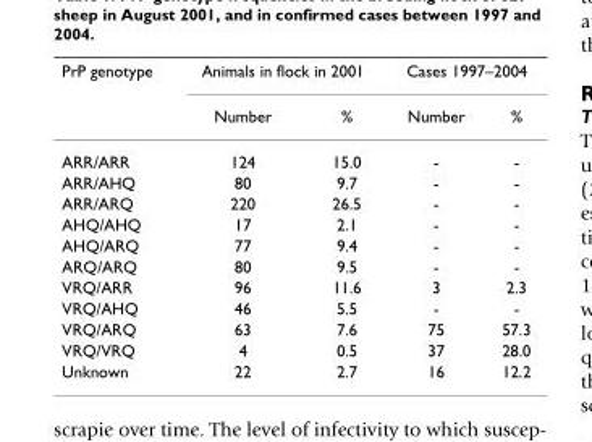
<table><thead><tr><td rowspan="2">PrP genotype</td><td colspan="2">Animals in flock in 2001</td><td colspan="2">Cases 1997–2004</td></tr><tr><td>Number</td><td>%</td><td>Number</td><td>%</td></tr></thead><tbody><tr><td>ARR/ARR</td><td>124</td><td>15.0</td><td>-</td><td>-</td></tr><tr><td>ARR/AHQ</td><td>80</td><td>9.7</td><td>-</td><td>-</td></tr><tr><td>ARR/ARQ</td><td>220</td><td>26.5</td><td>-</td><td>-</td></tr><tr><td>AHQ/AHQ</td><td>17</td><td>2.1</td><td>-</td><td>-</td></tr><tr><td>AHQ/ARQ</td><td>77</td><td>9.4</td><td>-</td><td>-</td></tr><tr><td>ARQ/ARQ</td><td>80</td><td>9.5</td><td>-</td><td>-</td></tr><tr><td>VRQ/ARR</td><td>96</td><td>11.6</td><td>3</td><td>2.3</td></tr><tr><td>VRQ/AHQ</td><td>46</td><td>5.5</td><td>-</td><td>-</td></tr><tr><td>VRQ/ARQ</td><td>63</td><td>7.6</td><td>75</td><td>57.3</td></tr><tr><td>VRQ/VRQ</td><td>4</td><td>0.5</td><td>37</td><td>28.0</td></tr><tr><td>Unknown</td><td>22</td><td>2.7</td><td>16</td><td>12.2</td></tr></tbody></table>